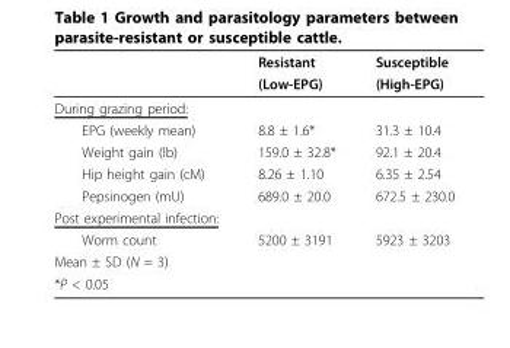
<table><thead><tr><td rowspan="2"></td><td rowspan="2">Resistant (Low-EPG)</td><td rowspan="2">Susceptible (High-EPG)</td></tr><tr></tr></thead><tbody><tr><td colspan="3">During grazing period:</td></tr><tr><td>EPG (weekly mean)</td><td>8.8 ± 1.6*</td><td>31.3 ± 10.4</td></tr><tr><td>Weight gain (lb)</td><td>159.0 ± 32.8*</td><td>92.1 ± 20.4</td></tr><tr><td>Hip height gain (cM)</td><td>8.26 ± 1.10</td><td>6.35 ± 2.54</td></tr><tr><td>Pepsinogen (mU)</td><td>689.0 ± 20.0</td><td>672.5 ± 230.0</td></tr><tr><td colspan="3">Post experimental infection:</td></tr><tr><td>Worm count</td><td>5200 ± 3191</td><td>5923 ± 3203</td></tr><tr><td colspan="3">Mean ± SD (N = 3)</td></tr><tr><td>*P &lt; 0.05</td><td></td><td></td></tr></tbody></table>